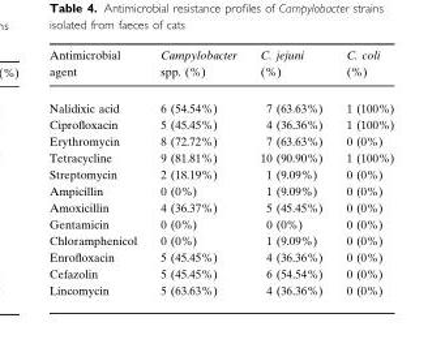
<table><thead><tr><td>Antimicrobial agent</td><td>Campylobacter spp. (%)</td><td>C. jejuni (%)</td><td>C. coli (%)</td></tr></thead><tbody><tr><td>Nalidixic acid</td><td>6 (54.54%)</td><td>7 (63.63%)</td><td>1 (100%)</td></tr><tr><td>Ciprofloxacin</td><td>5 (45.45%)</td><td>4 (36.36%)</td><td>1 (100%)</td></tr><tr><td>Erythromycin</td><td>8 (72.72%)</td><td>7 (63.63%)</td><td>0 (0%)</td></tr><tr><td>Tetracycline</td><td>9 (81.81%)</td><td>10 (90.90%)</td><td>1 (100%)</td></tr><tr><td>Streptomycin</td><td>2 (18.19%)</td><td>1 (9.09%)</td><td>0 (0%)</td></tr><tr><td>Ampicillin</td><td>0 (0%)</td><td>1 (9.09%)</td><td>0 (0%)</td></tr><tr><td>Amoxicillin</td><td>4 (36.37%)</td><td>5 (45.45%)</td><td>0 (0%)</td></tr><tr><td>Gentamicin</td><td>0 (0%)</td><td>0 (0%)</td><td>0 (0%)</td></tr><tr><td>Chloramphenicol</td><td>0 (0%)</td><td>1 (9.09%)</td><td>0 (0%)</td></tr><tr><td>Enrofloxacin</td><td>5 (45.45%)</td><td>4 (36.36%)</td><td>0 (0%)</td></tr><tr><td>Cefazolin</td><td>5 (45.45%)</td><td>6 (54.54%)</td><td>0 (0%)</td></tr><tr><td>Lincomycin</td><td>5 (63.63%)</td><td>4 (36.36%)</td><td>0 (0%)</td></tr></tbody></table>